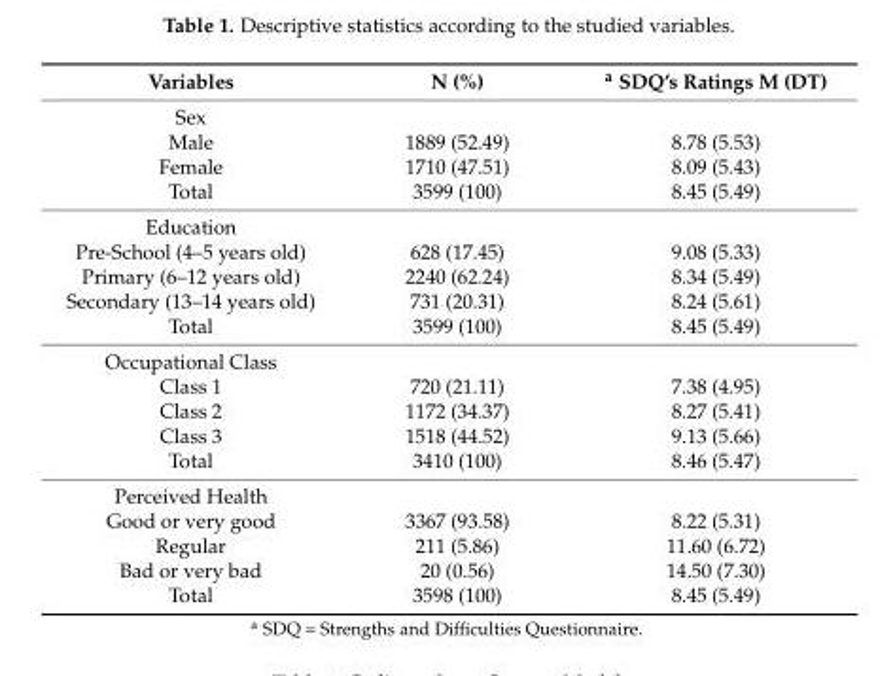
<table><thead><tr><td>Variables</td><td>N (%)</td><td><sup>a</sup> SDQ’s Ratings M (DT)</td></tr></thead><tbody><tr><td colspan="3">Sex</td></tr><tr><td>Male</td><td>1889 (52.49)</td><td>8.78 (5.53)</td></tr><tr><td>Female</td><td>1710 (47.51)</td><td>8.09 (5.43)</td></tr><tr><td>Total</td><td>3599 (100)</td><td>8.45 (5.49)</td></tr><tr><td colspan="3">Education</td></tr><tr><td>Pre-School (4–5 years old)</td><td>628 (17.45)</td><td>9.08 (5.33)</td></tr><tr><td>Primary (6–12 years old)</td><td>2240 (62.24)</td><td>8.34 (5.49)</td></tr><tr><td>Secondary (13–14 years old)</td><td>731 (20.31)</td><td>8.24 (5.61)</td></tr><tr><td>Total</td><td>3599 (100)</td><td>8.45 (5.49)</td></tr><tr><td colspan="3">Occupational Class</td></tr><tr><td>Class 1</td><td>720 (21.11)</td><td>7.38 (4.95)</td></tr><tr><td>Class 2</td><td>1172 (34.37)</td><td>8.27 (5.41)</td></tr><tr><td>Class 3</td><td>1518 (44.52)</td><td>9.13 (5.66)</td></tr><tr><td>Total</td><td>3410 (100)</td><td>8.46 (5.47)</td></tr><tr><td colspan="3">Perceived Health</td></tr><tr><td>Good or very good</td><td>3367 (93.58)</td><td>8.22 (5.31)</td></tr><tr><td>Regular</td><td>211 (5.86)</td><td>11.60 (6.72)</td></tr><tr><td>Bad or very bad</td><td>20 (0.56)</td><td>14.50 (7.30)</td></tr><tr><td>Total</td><td>3598 (100)</td><td>8.45 (5.49)</td></tr></tbody></table>